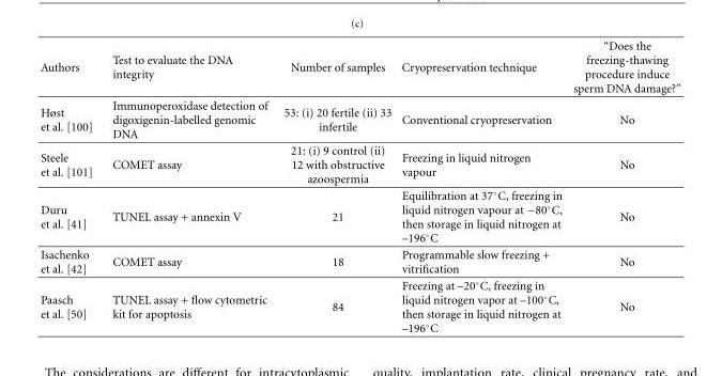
<table><thead><tr><td>Authors</td><td>Test to evaluate the DNA integrity</td><td>Number of samples</td><td>Cryopreservation technique</td><td>“Does the freezing-thawing procedure induce sperm DNA damage?”</td></tr></thead><tbody><tr><td>Høst et al. [100]</td><td>Immunoperoxidase detection of digoxigenin-labelled genomic DNA</td><td>53: (i) 20 fertile (ii) 33 infertile</td><td>Conventional cryopreservation</td><td>No</td></tr><tr><td>Steele et al. [101]</td><td>COMET assay</td><td>21: (i) 9 control (ii) 12 with obstructive azoospermia</td><td>Freezing in liquid nitrogen vapour</td><td>No</td></tr><tr><td>Duru et al. [41]</td><td>TUNEL assay + annexin V</td><td>21</td><td>Equilibration at 37◦C, freezing in liquid nitrogen vapour at −80◦C, then storage in liquid nitrogen at –196◦C</td><td>No</td></tr><tr><td>Isachenko et al. [42]</td><td>COMET assay</td><td>18</td><td>Programmable slow freezing + vitrification</td><td>No</td></tr><tr><td>Paasch et al. [50]</td><td>TUNEL assay + flow cytometric kit for apoptosis</td><td>84</td><td>Freezing at –20◦C, freezing in liquid nitrogen vapor at –100◦C, then storage in liquid nitrogen at –196◦C</td><td>No</td></tr></tbody></table>